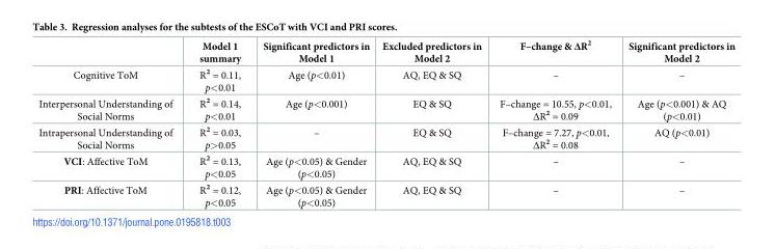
<table><thead><tr><td></td><td>Model 1 summary</td><td>Significant predictors in Model 1</td><td>Excluded predictors in Model 2</td><td>F–change &amp; ΔR<sup>2</sup></td><td>Significant predictors in Model 2</td></tr></thead><tbody><tr><td>Cognitive ToM</td><td>R<sup>2</sup> = 0.11, p&lt;0.01</td><td>Age (p&lt;0.01)</td><td>AQ, EQ &amp; SQ</td><td>–</td><td>–</td></tr><tr><td>Interpersonal Understanding of Social Norms</td><td>R<sup>2</sup> = 0.14, p&lt;0.01</td><td>Age (p&lt;0.001)</td><td>EQ &amp; SQ</td><td>F–change = 10.55, p&lt;0.01, ΔR<sup>2</sup> = 0.09</td><td>Age (p&lt;0.001) &amp; AQ (p&lt;0.01)</td></tr><tr><td>Intrapersonal Understanding of Social Norms</td><td>R<sup>2</sup> = 0.03, p&gt;0.05</td><td>–</td><td>EQ &amp; SQ</td><td>F–change = 7.27, p&lt;0.01, ΔR<sup>2</sup> = 0.08</td><td>AQ (p&lt;0.01)</td></tr><tr><td>VCI: Affective ToM</td><td>R<sup>2</sup> = 0.13, p&lt;0.05</td><td>Age (p&lt;0.05) &amp; Gender (p&lt;0.05)</td><td>AQ, EQ &amp; SQ</td><td>–</td><td>–</td></tr><tr><td>PRI: Affective ToM</td><td>R<sup>2</sup> = 0.12, p&lt;0.05</td><td>Age (p&lt;0.05) &amp; Gender (p&lt;0.05)</td><td>AQ, EQ &amp; SQ</td><td>–</td><td>–</td></tr></tbody></table>